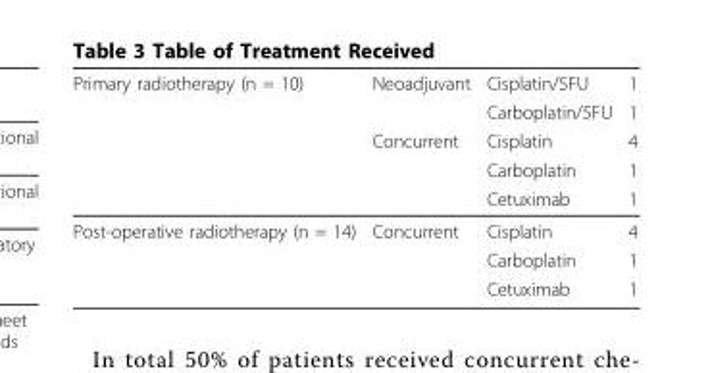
<table><thead><tr><td rowspan="5">Primary radiotherapy (n = 10)</td><td rowspan="5">Neoadjuvant Concurrent</td><td rowspan="5">Cisplatin/5FU Carboplatin/5FU Cisplatin Carboplatin Cetuximab</td><td rowspan="5">1 1 4 1 1</td></tr><tr></tr><tr></tr><tr></tr><tr></tr></thead><tbody><tr><td rowspan="3">Post-operative radiotherapy (n = 14)</td><td>Concurrent</td><td>Cisplatin</td><td>4</td></tr><tr><td></td><td>Carboplatin</td><td>1</td></tr><tr><td></td><td>Cetuximab</td><td>1</td></tr></tbody></table>